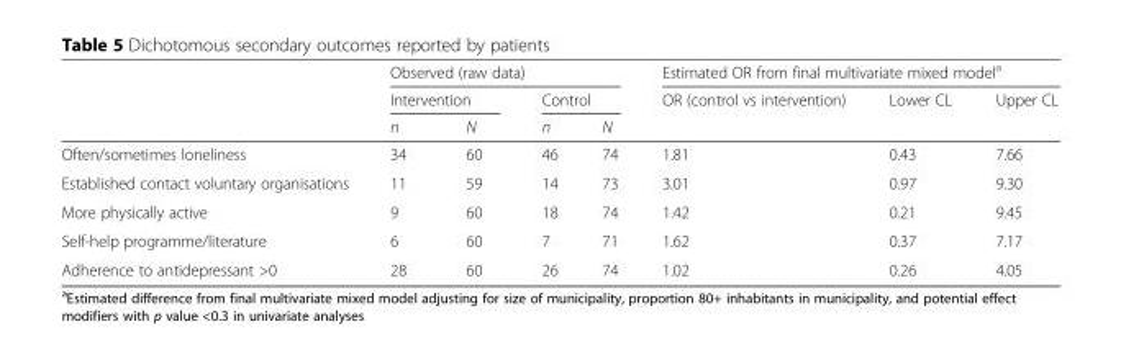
<table><thead><tr><td rowspan="3"></td><td colspan="4">Observed (raw data)</td><td colspan="3">Estimated OR from final multivariate mixed model<sup>a</sup></td></tr><tr><td colspan="2">Intervention</td><td colspan="2">Control</td><td rowspan="2">OR (control vs intervention)</td><td rowspan="2">Lower CL</td><td rowspan="2">Upper CL</td></tr><tr><td>n</td><td>N</td><td>n</td><td>N</td></tr></thead><tbody><tr><td>Often/sometimes loneliness</td><td>34</td><td>60</td><td>46</td><td>74</td><td>1.81</td><td>0.43</td><td>7.66</td></tr><tr><td>Established contact voluntary organisations</td><td>11</td><td>59</td><td>14</td><td>73</td><td>3.01</td><td>0.97</td><td>9.30</td></tr><tr><td>More physically active</td><td>9</td><td>60</td><td>18</td><td>74</td><td>1.42</td><td>0.21</td><td>9.45</td></tr><tr><td>Self-help programme/literature</td><td>6</td><td>60</td><td>7</td><td>71</td><td>1.62</td><td>0.37</td><td>7.17</td></tr><tr><td>Adherence to antidepressant &gt;0</td><td>28</td><td>60</td><td>26</td><td>74</td><td>1.02</td><td>0.26</td><td>4.05</td></tr></tbody></table>